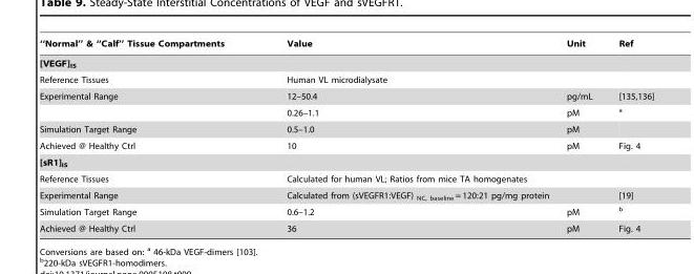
<table><thead><tr><td>‘‘Normal’’ &amp; ‘‘Calf’’ Tissue Compartments</td><td>Value</td><td>Unit</td><td>Ref</td></tr></thead><tbody><tr><td colspan="4">[VEGF]<sub>IS</sub></td></tr><tr><td>Reference Tissues</td><td>Human VL microdialysate</td><td></td><td></td></tr><tr><td rowspan="2">Experimental Range</td><td>12–50.4</td><td>pg/mL</td><td>[135,136]</td></tr><tr><td>0.26–1.1</td><td>pM</td><td>a</td></tr><tr><td>Simulation Target Range</td><td>0.5–1.0</td><td>pM</td><td></td></tr><tr><td>Achieved @ Healthy Ctrl</td><td>10</td><td>pM</td><td>Fig. 4</td></tr><tr><td colspan="4">[sR1]<sub>IS</sub></td></tr><tr><td>Reference Tissues</td><td>Calculated for human VL; Ratios from mice TA homogenates</td><td></td><td></td></tr><tr><td>Experimental Range</td><td>Calculated from (sVEGFR1:VEGF) NC, baseline = 120:21 pg/mg protein</td><td></td><td>[19]</td></tr><tr><td>Simulation Target Range</td><td>0.6–1.2</td><td>pM</td><td>b</td></tr><tr><td>Achieved @ Healthy Ctrl</td><td>36</td><td>pM</td><td>Fig. 4</td></tr></tbody></table>